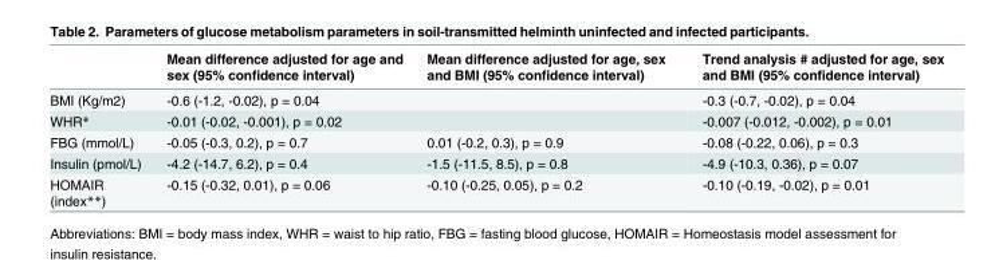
<table><thead><tr><td></td><td>Mean difference adjusted for age and sex (95% confidence interval)</td><td>Mean difference adjusted for age, sex and BMI (95% confidence interval)</td><td>Trend analysis # adjusted for age, sex and BMI (95% confidence interval)</td></tr></thead><tbody><tr><td>BMI (Kg/m2)</td><td>-0.6 (-1.2, -0.02), p = 0.04</td><td></td><td>-0.3 (-0.7, -0.02), p = 0.04</td></tr><tr><td>WHR*</td><td>-0.01 (-0.02, -0.001), p = 0.02</td><td></td><td>-0.007 (-0.012, -0.002), p = 0.01</td></tr><tr><td>FBG (mmol/L)</td><td>-0.05 (-0.3, 0.2), p = 0.7</td><td>0.01 (-0.2, 0.3), p = 0.9</td><td>-0.08 (-0.22, 0.06), p = 0.3</td></tr><tr><td>Insulin (pmol/L)</td><td>-4.2 (-14.7, 6.2), p = 0.4</td><td>-1.5 (-11.5, 8.5), p = 0.8</td><td>-4.9 (-10.3, 0.36), p = 0.07</td></tr><tr><td>HOMAIR (index**)</td><td>-0.15 (-0.32, 0.01), p = 0.06</td><td>-0.10 (-0.25, 0.05), p = 0.2</td><td>-0.10 (-0.19, -0.02), p = 0.01</td></tr></tbody></table>